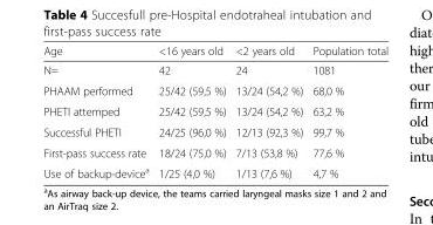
<table><thead><tr><td>Age</td><td>&lt;16 years old</td><td>&lt;2 years old</td><td>Population total</td></tr></thead><tbody><tr><td>N=</td><td>42</td><td>24</td><td>1081</td></tr><tr><td>PHAAM performed</td><td>25/42 (59,5 %)</td><td>13/24 (54,2 %)</td><td>68,0 %</td></tr><tr><td>PHETI attemped</td><td>25/42 (59,5 %)</td><td>13/24 (54,2 %)</td><td>63,2 %</td></tr><tr><td>Successful PHETI</td><td>24/25 (96,0 %)</td><td>12/13 (92,3 %)</td><td>99,7 %</td></tr><tr><td>First-pass success rate</td><td>18/24 (75,0 %)</td><td>7/13 (53,8 %)</td><td>77,6 %</td></tr><tr><td>Use of backup-device<sup>a</sup></td><td>1/25 (4,0 %)</td><td>1/13 (7,6 %)</td><td>4,7 %</td></tr></tbody></table>